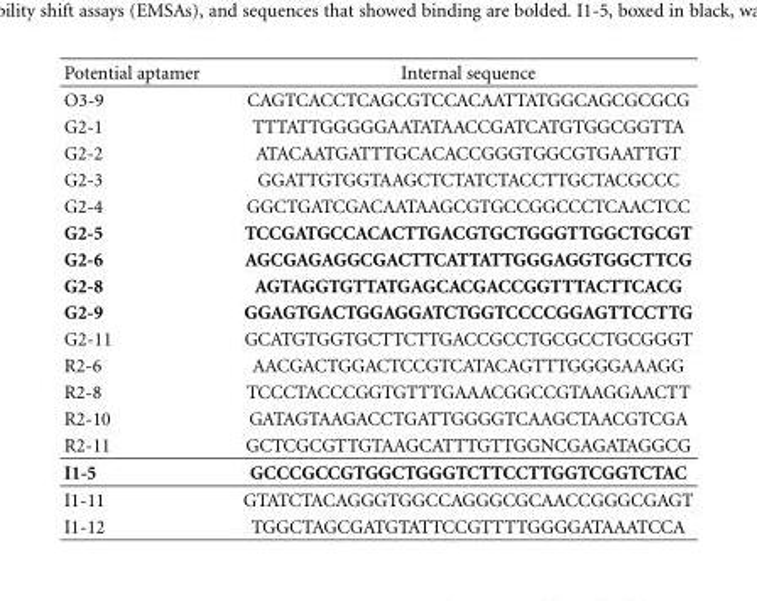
<table><thead><tr><td>Potential aptamer</td><td>Internal sequence</td></tr></thead><tbody><tr><td>O3-9</td><td>CAGTCACCTCAGCGTCCACAATTATGGCAGCGCGCG</td></tr><tr><td>G2-1</td><td>TTTATTGGGGGAATATAACCGATCATGTGGCGGTTA</td></tr><tr><td>G2-2</td><td>ATACAATGATTTGCACACCGGGTGGCGTGAATTGT</td></tr><tr><td>G2-3</td><td>GGATTGTGGTAAGCTCTATCTACCTTGCTACGCCC</td></tr><tr><td>G2-4</td><td>GGCTGATCGACAATAAGCGTGCCGGCCCTCAACTCC</td></tr><tr><td>G2-5</td><td>TCCGATGCCACACTTGACGTGCTGGGTTGGCTGCGT</td></tr><tr><td>G2-6</td><td>AGCGAGAGGCGACTTCATTATTGGGAGGTGGCTTCG</td></tr><tr><td>G2-8</td><td>AGTAGGTGTTATGAGCACGACCGGTTTACTTCACG</td></tr><tr><td>G2-9</td><td>GGAGTGACTGGAGGATCTGGTCCCCGGAGTTCCTTG</td></tr><tr><td>G2-11</td><td>GCATGTGGTGCTTCTTGACCGCCTGCGCCTGCGGGT</td></tr><tr><td>R2-6</td><td>AACGACTGGACTCCGTCATACAGTTTGGGGAAAGG</td></tr><tr><td>R2-8</td><td>TCCCTACCCGGTGTTTGAAACGGCCGTAAGGAACTT</td></tr><tr><td>R2-10</td><td>GATAGTAAGACCTGATTGGGGTCAAGCTAACGTCGA</td></tr><tr><td>R2-11</td><td>GCTCGCGTTGTAAGCATTTGTTGGNCGAGATAGGCG</td></tr><tr><td>I1-5</td><td>GCCCGCCGTGGCTGGGTCTTCCTTGGTCGGTCTAC</td></tr><tr><td>I1-11</td><td>GTATCTACAGGGTGGCCAGGGCGCAACCGGGCGAGT</td></tr><tr><td>I1-12</td><td>TGGCTAGCGATGTATTCCGTTTTGGGGATAAATCCA</td></tr></tbody></table>